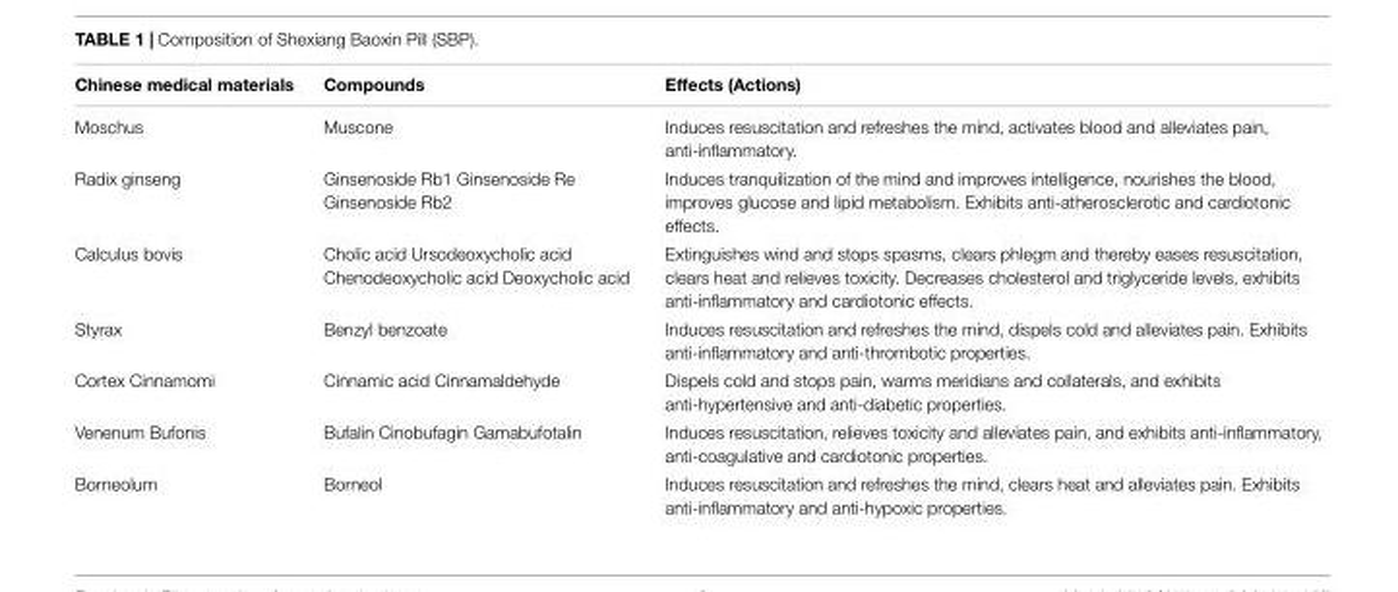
<table><thead><tr><td>Chinese medical materials</td><td>Compounds</td><td>Effects (Actions)</td></tr></thead><tbody><tr><td>Moschus</td><td>Muscone</td><td>Induces resuscitation and refreshes the mind, activates blood and alleviates pain, anti-inflammatory.</td></tr><tr><td>Radix ginseng</td><td>Ginsenoside Rb1 Ginsenoside Re Ginsenoside Rb2</td><td>Induces tranquilization of the mind and improves intelligence, nourishes the blood, improves glucose and lipid metabolism. Exhibits anti-atherosclerotic and cardiotonic effects.</td></tr><tr><td>Calculus bovis</td><td>Cholic acid Ursodeoxycholic acid Chenodeoxycholic acid Deoxycholic acid</td><td>Extinguishes wind and stops spasms, clears phlegm and thereby eases resuscitation, clears heat and relieves toxicity. Decreases cholesterol and triglyceride levels, exhibits anti-inflammatory and cardiotonic effects.</td></tr><tr><td>Styrax</td><td>Benzyl benzoate</td><td>Induces resuscitation and refreshes the mind, dispels cold and alleviates pain. Exhibits anti-inflammatory and anti-thrombotic properties.</td></tr><tr><td>Cortex Cinnamomi</td><td>Cinnamic acid Cinnamaldehyde</td><td>Dispels cold and stops pain, warms meridians and collaterals, and exhibits anti-hypertensive and anti-diabetic properties.</td></tr><tr><td>Venenum Bufonis</td><td>Bufalin Cinobufagin Gamabufotalin</td><td>Induces resuscitation, relieves toxicity and alleviates pain, and exhibits anti-inflammatory, anti-coagulative and cardiotonic properties.</td></tr><tr><td>Borneolum</td><td>Borneol</td><td>Induces resuscitation and refreshes the mind, clears heat and alleviates pain. Exhibits anti-inflammatory and anti-hypoxic properties.</td></tr></tbody></table>